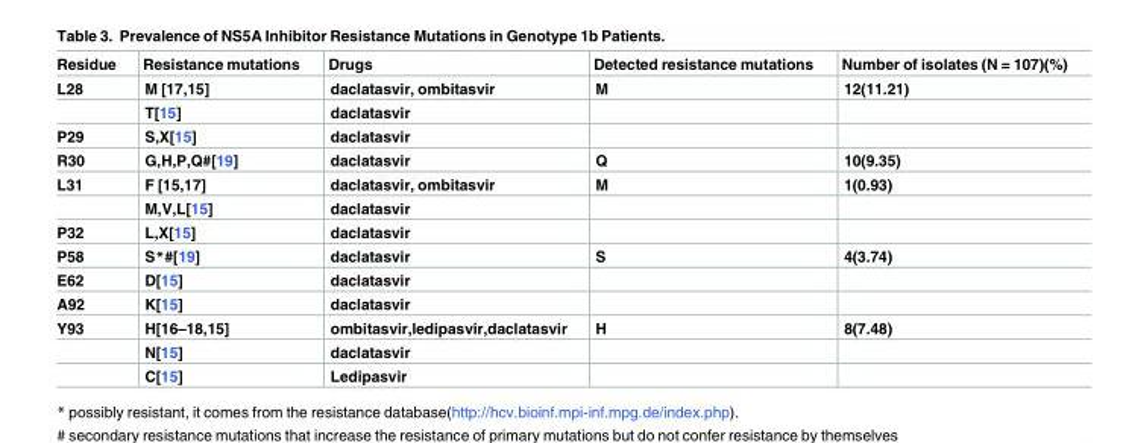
<table><thead><tr><td>Residue</td><td>Resistance mutations</td><td>Drugs</td><td>Detected resistance mutations</td><td>Number of isolates (N = 107)(%)</td></tr></thead><tbody><tr><td rowspan="2">L28</td><td>M [17,15]</td><td>daclatasvir, ombitasvir</td><td>M</td><td>12(11.21)</td></tr><tr><td>T[15]</td><td>daclatasvir</td><td></td><td></td></tr><tr><td>P29</td><td>S,X[15]</td><td>daclatasvir</td><td></td><td></td></tr><tr><td>R30</td><td>G,H,P,Q#[19]</td><td>daclatasvir</td><td>Q</td><td>10(9.35)</td></tr><tr><td rowspan="2">L31</td><td>F [15,17]</td><td>daclatasvir, ombitasvir</td><td>M</td><td>1(0.93)</td></tr><tr><td>M,V,L[15]</td><td>daclatasvir</td><td></td><td></td></tr><tr><td>P32</td><td>L,X[15]</td><td>daclatasvir</td><td></td><td></td></tr><tr><td>P58</td><td>S*#[19]</td><td>daclatasvir</td><td>S</td><td>4(3.74)</td></tr><tr><td>E62</td><td>D[15]</td><td>daclatasvir</td><td></td><td></td></tr><tr><td>A92</td><td>K[15]</td><td>daclatasvir</td><td></td><td></td></tr><tr><td rowspan="3">Y93</td><td>H[16–18,15]</td><td>ombitasvir,ledipasvir,daclatasvir</td><td>H</td><td>8(7.48)</td></tr><tr><td>N[15]</td><td>daclatasvir</td><td></td><td></td></tr><tr><td>C[15]</td><td>Ledipasvir</td><td></td><td></td></tr></tbody></table>